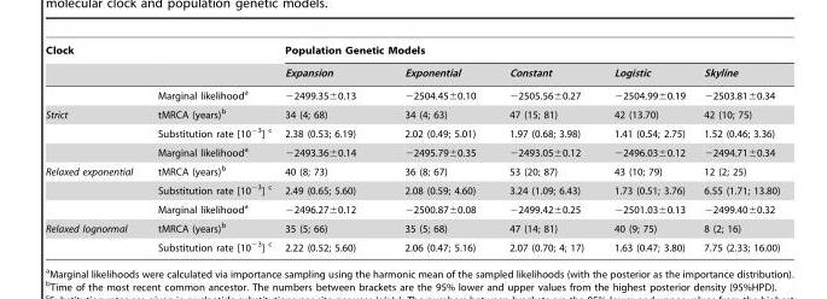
<table><thead><tr><td rowspan="2">Clock</td><td rowspan="2"></td><td colspan="5">Population Genetic Models</td></tr><tr><td>Expansion</td><td>Exponential</td><td>Constant</td><td>Logistic</td><td>Skyline</td></tr></thead><tbody><tr><td></td><td>Marginal likelihood<sup>a</sup></td><td>−2499.35±0.13</td><td>−2504.45±0.10</td><td>−2505.56±0.27</td><td>−2504.99±0.19</td><td>−2503.81±0.34</td></tr><tr><td rowspan="3">Strict</td><td>tMRCA (years)<sup>b</sup></td><td>34 (4; 68)</td><td>34 (4; 63)</td><td>47 (15; 81)</td><td>42 (13.70)</td><td>42 (10; 75)</td></tr><tr><td>Substitution rate [10<sup>−3</sup>] c</td><td>2.38 (0.53; 6.19)</td><td>2.02 (0.49; 5.01)</td><td>1.97 (0.68; 3.98)</td><td>1.41 (0.54; 2.75)</td><td>1.52 (0.46; 3.36)</td></tr><tr><td>Marginal likelihood<sup>a</sup></td><td>−2493.36±0.14</td><td>−2495.79±0.35</td><td>−2493.05±0.12</td><td>−2496.03±0.12</td><td>−2494.71±0.34</td></tr><tr><td rowspan="3">Relaxed exponential</td><td>tMRCA (years)<sup>b</sup></td><td>40 (8; 73)</td><td>36 (8; 67)</td><td>53 (20; 87)</td><td>43 (10; 79)</td><td>12 (2; 25)</td></tr><tr><td>Substitution rate [10<sup>−3</sup>] c</td><td>2.49 (0.65; 5.60)</td><td>2.08 (0.59; 4.60)</td><td>3.24 (1.09; 6.43)</td><td>1.73 (0.51; 3.76)</td><td>6.55 (1.71; 13.80)</td></tr><tr><td>Marginal likelihood<sup>a</sup></td><td>−2496.27±0.12</td><td>−2500.87±0.08</td><td>−2499.42±0.25</td><td>−2501.03±0.13</td><td>−2499.40±0.32</td></tr><tr><td rowspan="2">Relaxed lognormal</td><td>tMRCA (years)<sup>b</sup></td><td>35 (5; 66)</td><td>35 (5; 68)</td><td>47 (14; 81)</td><td>40 (9; 75)</td><td>8 (2; 16)</td></tr><tr><td>Substitution rate [10<sup>−3</sup>] c</td><td>2.22 (0.52; 5.60)</td><td>2.06 (0.47; 5.16)</td><td>2.07 (0.70; 4; 17)</td><td>1.63 (0.47; 3.80)</td><td>7.75 (2.33; 16.00)</td></tr></tbody></table>